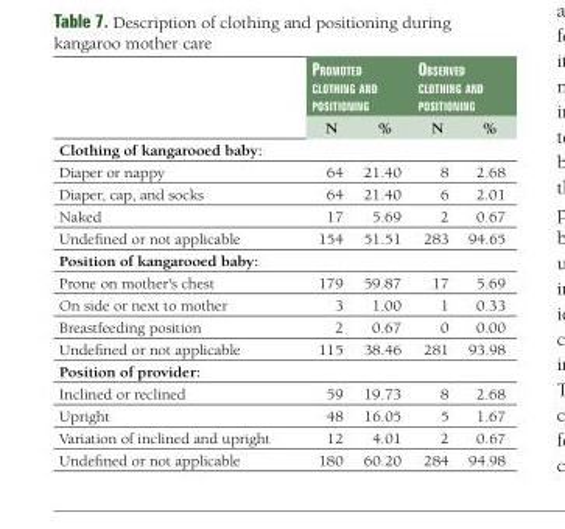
<table><thead><tr><td rowspan="2"></td><td colspan="2">promoted clothiNg aNd positioNiNg</td><td colspan="2">observed clothiNg aNd positioNiNg</td></tr><tr><td>N</td><td>%</td><td>N</td><td>%</td></tr></thead><tbody><tr><td colspan="5">Clothing of kangarooed baby:</td></tr><tr><td>Diaper or nappy</td><td>64</td><td>21.40</td><td>8</td><td>2.68</td></tr><tr><td>Diaper, cap, and socks</td><td>64</td><td>21.40</td><td>6</td><td>2.01</td></tr><tr><td>Naked</td><td>17</td><td>5.69</td><td>2</td><td>0.67</td></tr><tr><td>Undefined or not applicable</td><td>154</td><td>51.51</td><td>283</td><td>94.65</td></tr><tr><td colspan="5">Position of kangarooed baby:</td></tr><tr><td>Prone on mother&#x27;s chest</td><td>179</td><td>59.87</td><td>17</td><td>5.69</td></tr><tr><td>On side or next to mother</td><td>3</td><td>1.00</td><td>1</td><td>0.33</td></tr><tr><td>Breastfeeding position</td><td>2</td><td>0.67</td><td>0</td><td>0.00</td></tr><tr><td>Undefined or not applicable</td><td>115</td><td>38.46</td><td>281</td><td>93.98</td></tr><tr><td colspan="5">Position of provider:</td></tr><tr><td>Inclined or reclined</td><td>59</td><td>19.73</td><td>8</td><td>2.68</td></tr><tr><td>Upright</td><td>48</td><td>16.05</td><td>5</td><td>1.67</td></tr><tr><td>Variation of inclined and upright</td><td>12</td><td>4.01</td><td>2</td><td>0.67</td></tr><tr><td>Undefined or not applicable</td><td>180</td><td>60.20</td><td>284</td><td>94.98</td></tr></tbody></table>